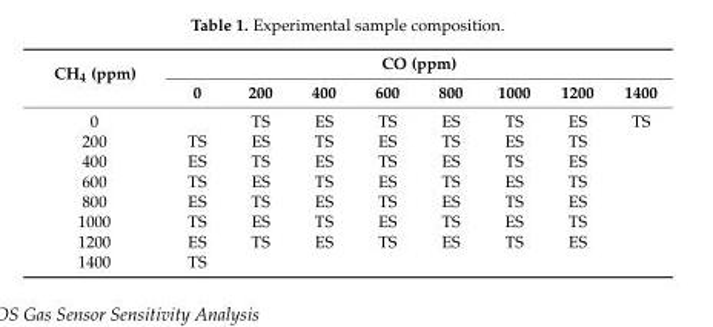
<table><thead><tr><td rowspan="2">CH<sub>4</sub> (ppm)</td><td colspan="8">CO (ppm)</td></tr><tr><td>0</td><td>200</td><td>400</td><td>600</td><td>800</td><td>1000</td><td>1200</td><td>1400</td></tr></thead><tbody><tr><td>0</td><td></td><td>TS</td><td>ES</td><td>TS</td><td>ES</td><td>TS</td><td>ES</td><td>TS</td></tr><tr><td>200</td><td>TS</td><td>ES</td><td>TS</td><td>ES</td><td>TS</td><td>ES</td><td>TS</td><td></td></tr><tr><td>400</td><td>ES</td><td>TS</td><td>ES</td><td>TS</td><td>ES</td><td>TS</td><td>ES</td><td></td></tr><tr><td>600</td><td>TS</td><td>ES</td><td>TS</td><td>ES</td><td>TS</td><td>ES</td><td>TS</td><td></td></tr><tr><td>800</td><td>ES</td><td>TS</td><td>ES</td><td>TS</td><td>ES</td><td>TS</td><td>ES</td><td></td></tr><tr><td>1000</td><td>TS</td><td>ES</td><td>TS</td><td>ES</td><td>TS</td><td>ES</td><td>TS</td><td></td></tr><tr><td>1200</td><td>ES</td><td>TS</td><td>ES</td><td>TS</td><td>ES</td><td>TS</td><td>ES</td><td></td></tr><tr><td>1400</td><td>TS</td><td></td><td></td><td></td><td></td><td></td><td></td><td></td></tr></tbody></table>